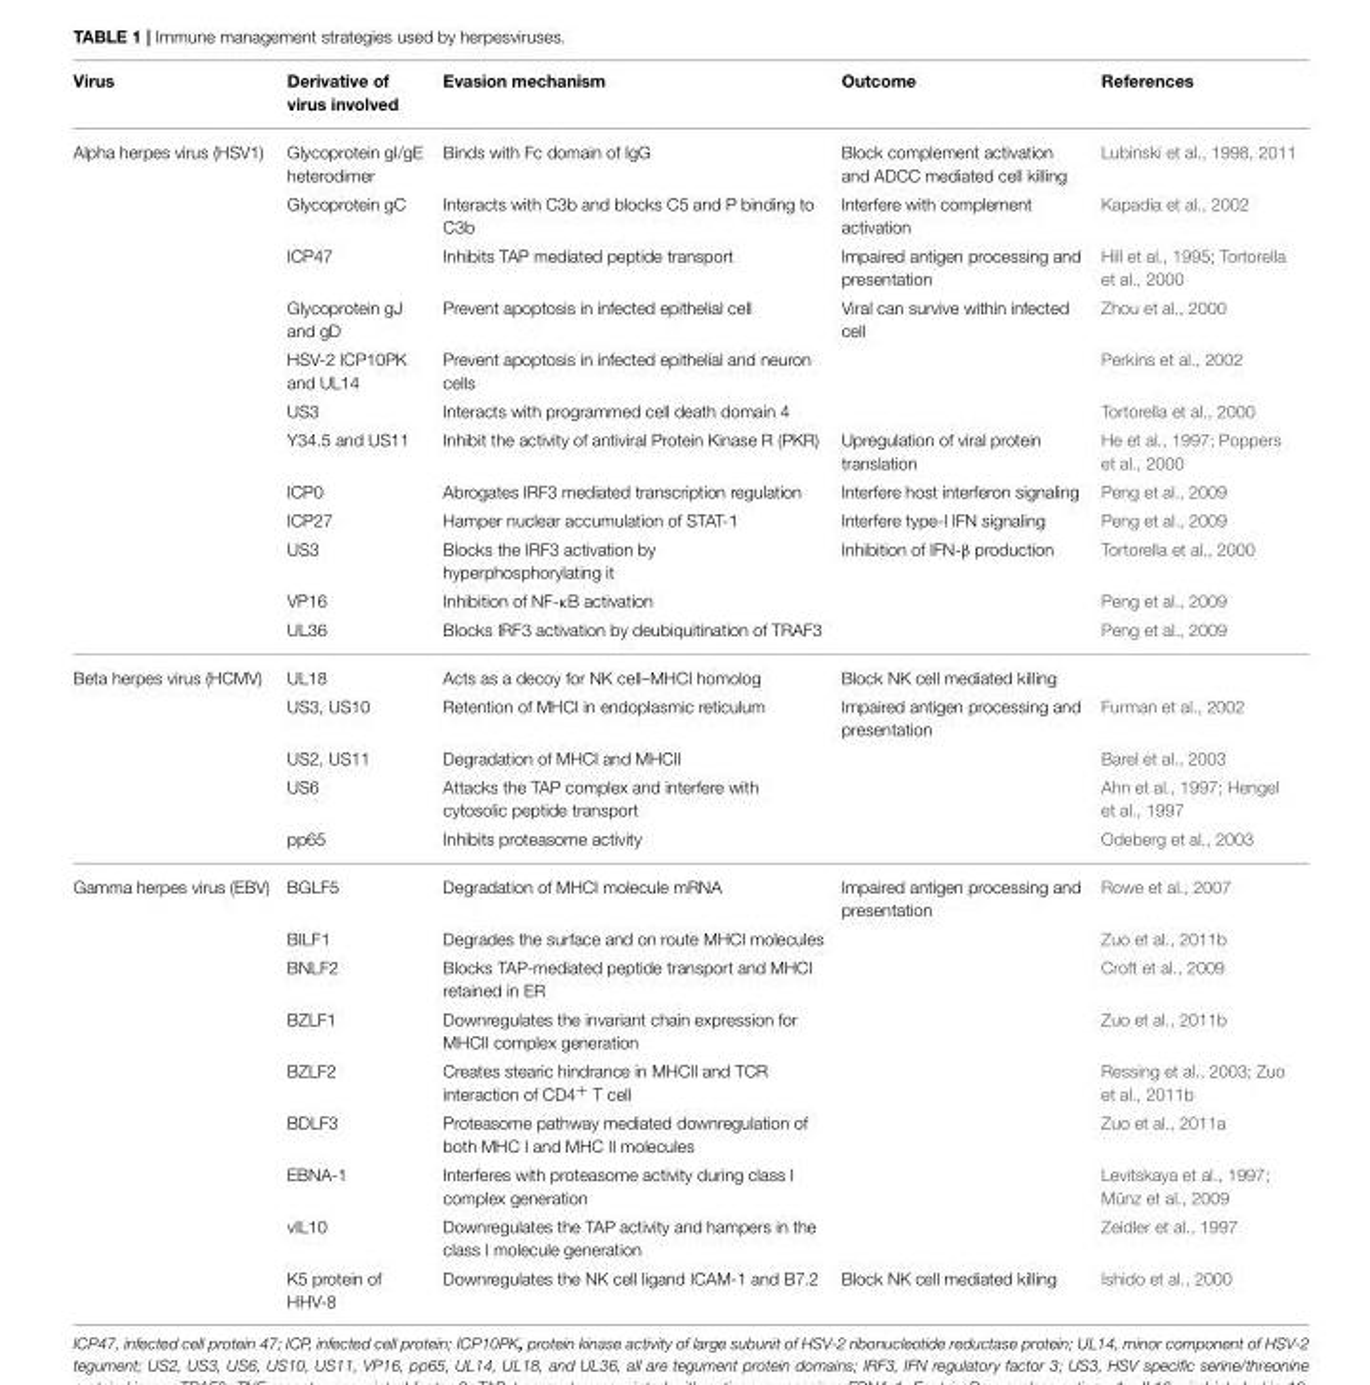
<table><thead><tr><td>Virus</td><td>Derivative of virus involved</td><td>Evasion mechanism</td><td>Outcome</td><td>References</td></tr></thead><tbody><tr><td rowspan="12">Alpha herpes virus (HSV1)</td><td>Glycoprotein gI/gE heterodimer</td><td>Binds with Fc domain of IgG</td><td>Block complement activation and ADCC mediated cell killing</td><td>Lubinski et al., 1998, 2011</td></tr><tr><td>Glycoprotein gC</td><td>Interacts with C3b and blocks C5 and P binding to C3b</td><td>Interfere with complement activation</td><td>Kapadia et al., 2002</td></tr><tr><td>ICP47</td><td>Inhibits TAP mediated peptide transport</td><td>Impaired antigen processing and presentation</td><td>Hill et al., 1995; Tortorella et al., 2000</td></tr><tr><td>Glycoprotein gJ and gD</td><td>Prevent apoptosis in infected epithelial cell</td><td>Viral can survive within infected cell</td><td>Zhou et al., 2000</td></tr><tr><td>HSV-2 ICP10PK and UL14</td><td>Prevent apoptosis in infected epithelial and neuron cells</td><td></td><td>Perkins et al., 2002</td></tr><tr><td>US3</td><td>Interacts with programmed cell death domain 4</td><td></td><td>Tortorella et al., 2000</td></tr><tr><td>Y34.5 and US11</td><td>Inhibit the activity of antiviral Protein Kinase R (PKR)</td><td>Upregulation of viral protein translation</td><td>He et al., 1997; Poppers et al., 2000</td></tr><tr><td>ICP0</td><td>Abrogates IRF3 mediated transcription regulation</td><td>Interfere host interferon signaling</td><td>Peng et al., 2009</td></tr><tr><td>ICP27</td><td>Hamper nuclear accumulation of STAT-1</td><td>Interfere type-I IFN signaling</td><td>Peng et al., 2009</td></tr><tr><td>US3</td><td>Blocks the IRF3 activation by hyperphosphorylating it</td><td>Inhibition of IFN-β production</td><td>Tortorella et al., 2000</td></tr><tr><td>VP16</td><td>Inhibition of NF-κB activation</td><td></td><td>Peng et al., 2009</td></tr><tr><td>UL36</td><td>Blocks IRF3 activation by deubiquitination of TRAF3</td><td></td><td>Peng et al., 2009</td></tr><tr><td rowspan="5">Beta herpes virus (HCMV)</td><td>UL18</td><td>Acts as a decoy for NK cell–MHCI homolog</td><td>Block NK cell mediated killing</td><td></td></tr><tr><td>US3, US10</td><td>Retention of MHCI in endoplasmic reticulum</td><td>Impaired antigen processing and presentation</td><td>Furman et al., 2002</td></tr><tr><td>US2, US11</td><td>Degradation of MHCI and MHCII</td><td></td><td>Barel et al., 2003</td></tr><tr><td>US6</td><td>Attacks the TAP complex and interfere with cytosolic peptide transport</td><td></td><td>Ahn et al., 1997; Hengel et al., 1997</td></tr><tr><td>pp65</td><td>Inhibits proteasome activity</td><td></td><td>Odeberg et al., 2003</td></tr><tr><td rowspan="9">Gamma herpes virus (EBV)</td><td>BGLF5</td><td>Degradation of MHCI molecule mRNA</td><td>Impaired antigen processing and presentation</td><td>Rowe et al., 2007</td></tr><tr><td>BILF1</td><td>Degrades the surface and on route MHCI molecules</td><td></td><td>Zuo et al., 2011b</td></tr><tr><td>BNLF2</td><td>Blocks TAP-mediated peptide transport and MHCI retained in ER</td><td></td><td>Croft et al., 2009</td></tr><tr><td>BZLF1</td><td>Downregulates the invariant chain expression for MHCII complex generation</td><td></td><td>Zuo et al., 2011b</td></tr><tr><td>BZLF2</td><td>Creates stearic hindrance in MHCII and TCR interaction of CD4<sup>+</sup> T cell</td><td></td><td>Ressing et al., 2003; Zuo et al., 2011b</td></tr><tr><td>BDLF3</td><td>Proteasome pathway mediated downregulation of both MHC I and MHC II molecules</td><td></td><td>Zuo et al., 2011a</td></tr><tr><td>EBNA-1</td><td>Interferes with proteasome activity during class I complex generation</td><td></td><td>Levitskaya et al., 1997; Münz et al., 2009</td></tr><tr><td>vIL10</td><td>Downregulates the TAP activity and hampers in the class I molecule generation</td><td></td><td>Zeidler et al., 1997</td></tr><tr><td>K5 protein of HHV-8</td><td>Downregulates the NK cell ligand ICAM-1 and B7.2</td><td>Block NK cell mediated killing</td><td>Ishido et al., 2000</td></tr></tbody></table>